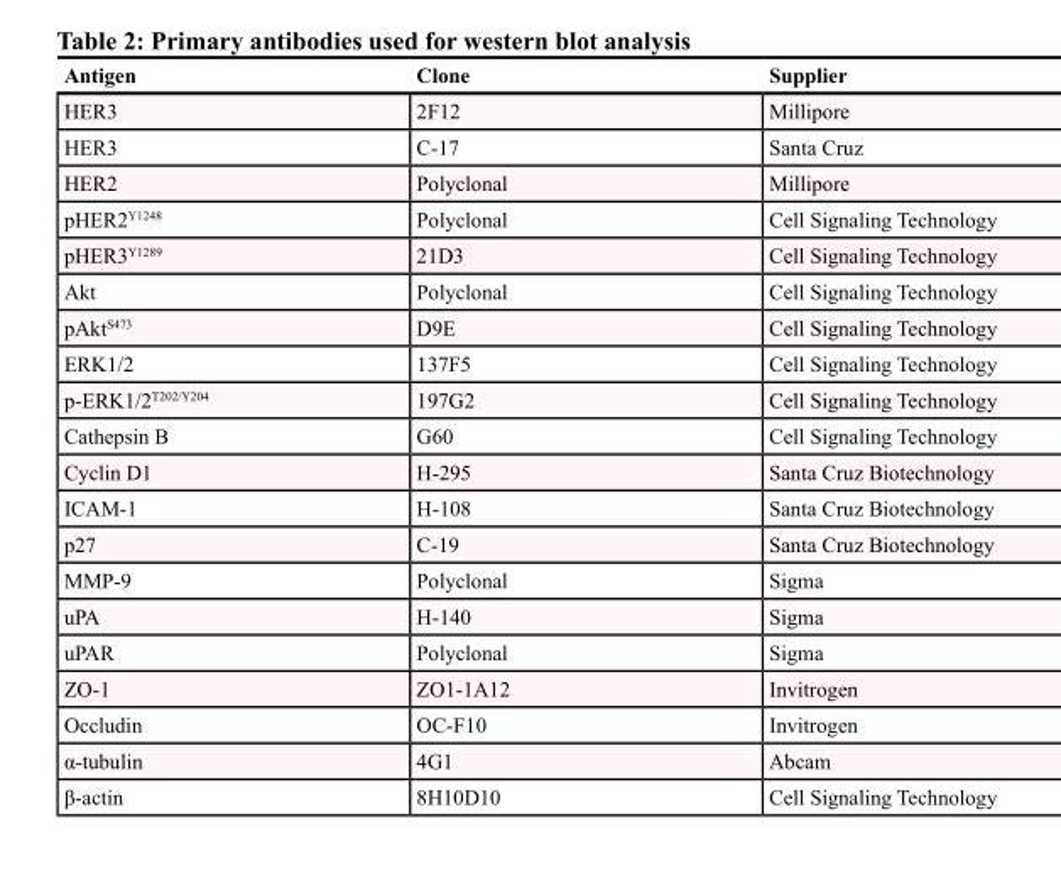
<table><thead><tr><td>Antigen</td><td>Clone</td><td>Supplier</td></tr></thead><tbody><tr><td>HER3</td><td>2F12</td><td>Millipore</td></tr><tr><td>HER3</td><td>C-17</td><td>Santa Cruz</td></tr><tr><td>HER2</td><td>Polyclonal</td><td>Millipore</td></tr><tr><td>pHER2<sup>Y1248</sup></td><td>Polyclonal</td><td>Cell Signaling Technology</td></tr><tr><td>pHER3<sup>Y1289</sup></td><td>21D3</td><td>Cell Signaling Technology</td></tr><tr><td>Akt</td><td>Polyclonal</td><td>Cell Signaling Technology</td></tr><tr><td>pAkt<sup>S473</sup></td><td>D9E</td><td>Cell Signaling Technology</td></tr><tr><td>ERK1/2</td><td>137F5</td><td>Cell Signaling Technology</td></tr><tr><td>p-ERK1/2<sup>T202/Y204</sup></td><td>197G2</td><td>Cell Signaling Technology</td></tr><tr><td>Cathepsin B</td><td>G60</td><td>Cell Signaling Technology</td></tr><tr><td>Cyclin D1</td><td>H-295</td><td>Santa Cruz Biotechnology</td></tr><tr><td>ICAM-1</td><td>H-108</td><td>Santa Cruz Biotechnology</td></tr><tr><td>p27</td><td>C-19</td><td>Santa Cruz Biotechnology</td></tr><tr><td>MMP-9</td><td>Polyclonal</td><td>Sigma</td></tr><tr><td>uPA</td><td>H-140</td><td>Sigma</td></tr><tr><td>uPAR</td><td>Polyclonal</td><td>Sigma</td></tr><tr><td>ZO-1</td><td>ZO1-1A12</td><td>Invitrogen</td></tr><tr><td>Occludin</td><td>OC-F10</td><td>Invitrogen</td></tr><tr><td>α-tubulin</td><td>4G1</td><td>Abcam</td></tr><tr><td>β-actin</td><td>8H10D10</td><td>Cell Signaling Technology</td></tr></tbody></table>